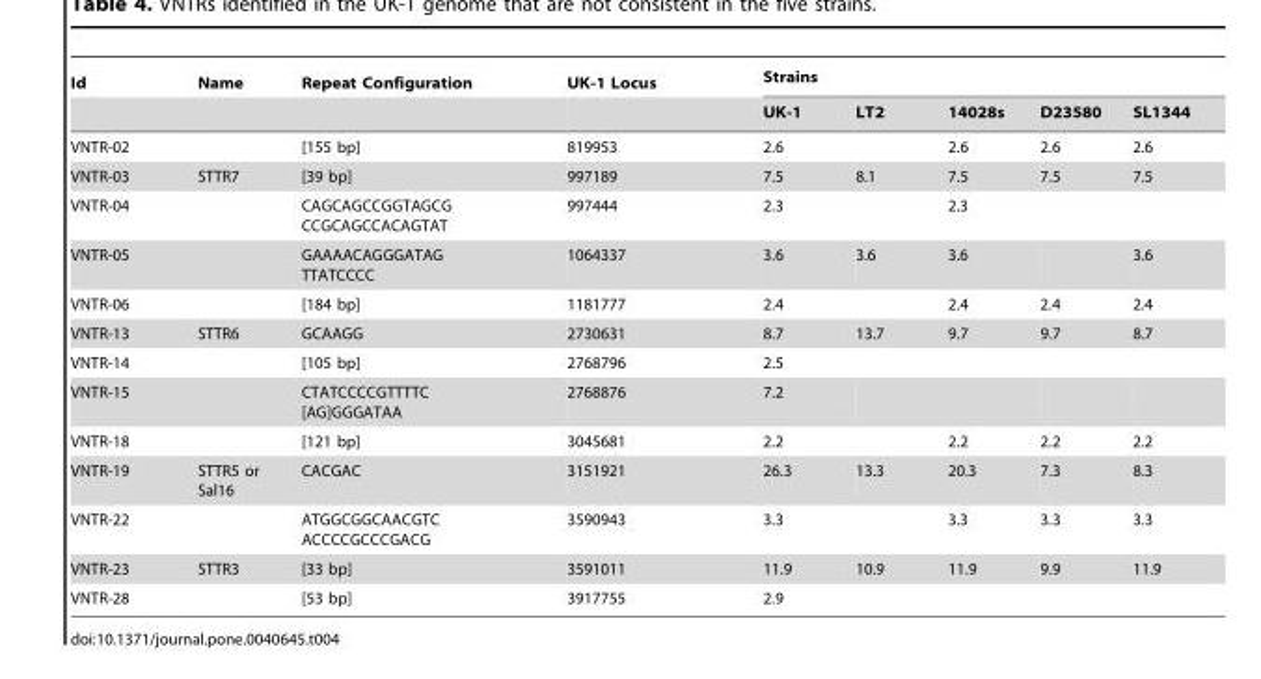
<table><thead><tr><td rowspan="2">Id</td><td rowspan="2">Name</td><td rowspan="2">Repeat Configuration</td><td rowspan="2">UK-1 Locus</td><td colspan="5">Strains</td></tr><tr><td>UK-1</td><td>LT2</td><td>14028s</td><td>D23580</td><td>SL1344</td></tr></thead><tbody><tr><td>VNTR-02</td><td></td><td>[155 bp]</td><td>819953</td><td>2.6</td><td></td><td>2.6</td><td>2.6</td><td>2.6</td></tr><tr><td>VNTR-03</td><td>STTR7</td><td>[39 bp]</td><td>997189</td><td>7.5</td><td>8.1</td><td>7.5</td><td>7.5</td><td>7.5</td></tr><tr><td>VNTR-04</td><td></td><td>CAGCAGCCGGTAGCG CCGCAGCCACAGTAT</td><td>997444</td><td>2.3</td><td></td><td>2.3</td><td></td><td></td></tr><tr><td>VNTR-05</td><td></td><td>GAAAACAGGGATAG TTATCCCC</td><td>1064337</td><td>3.6</td><td>3.6</td><td>3.6</td><td></td><td>3.6</td></tr><tr><td>VNTR-06</td><td></td><td>[184 bp]</td><td>1181777</td><td>2.4</td><td></td><td>2.4</td><td>2.4</td><td>2.4</td></tr><tr><td>VNTR-13</td><td>STTR6</td><td>GCAAGG</td><td>2730631</td><td>8.7</td><td>13.7</td><td>9.7</td><td>9.7</td><td>8.7</td></tr><tr><td>VNTR-14</td><td></td><td>[105 bp]</td><td>2768796</td><td>2.5</td><td></td><td></td><td></td><td></td></tr><tr><td>VNTR-15</td><td></td><td>CTATCCCCGTTTTC [AG]GGGATAA</td><td>2768876</td><td>7.2</td><td></td><td></td><td></td><td></td></tr><tr><td>VNTR-18</td><td></td><td>[121 bp]</td><td>3045681</td><td>2.2</td><td></td><td>2.2</td><td>2.2</td><td>2.2</td></tr><tr><td>VNTR-19</td><td>STTR5 or Sal16</td><td>CACGAC</td><td>3151921</td><td>26.3</td><td>13.3</td><td>20.3</td><td>7.3</td><td>8.3</td></tr><tr><td>VNTR-22</td><td></td><td>ATGGCGGCAACGTC ACCCCGCCCGACG</td><td>3590943</td><td>3.3</td><td></td><td>3.3</td><td>3.3</td><td>3.3</td></tr><tr><td>VNTR-23</td><td>STTR3</td><td>[33 bp]</td><td>3591011</td><td>11.9</td><td>10.9</td><td>11.9</td><td>9.9</td><td>11.9</td></tr><tr><td>VNTR-28</td><td></td><td>[53 bp]</td><td>3917755</td><td>2.9</td><td></td><td></td><td></td><td></td></tr></tbody></table>